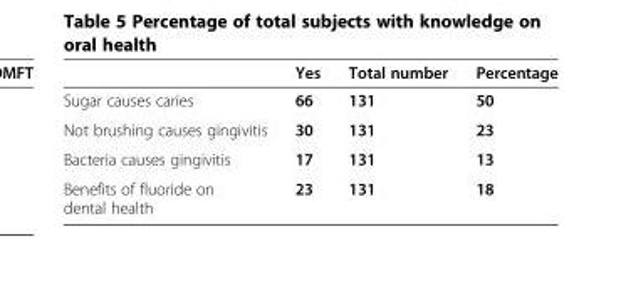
<table><thead><tr><td></td><td>Yes</td><td>Total number</td><td>Percentage</td></tr></thead><tbody><tr><td>Sugar causes caries</td><td>66</td><td>131</td><td>50</td></tr><tr><td>Not brushing causes gingivitis</td><td>30</td><td>131</td><td>23</td></tr><tr><td>Bacteria causes gingivitis</td><td>17</td><td>131</td><td>13</td></tr><tr><td>Benefits of fluoride on dental health</td><td>23</td><td>131</td><td>18</td></tr></tbody></table>